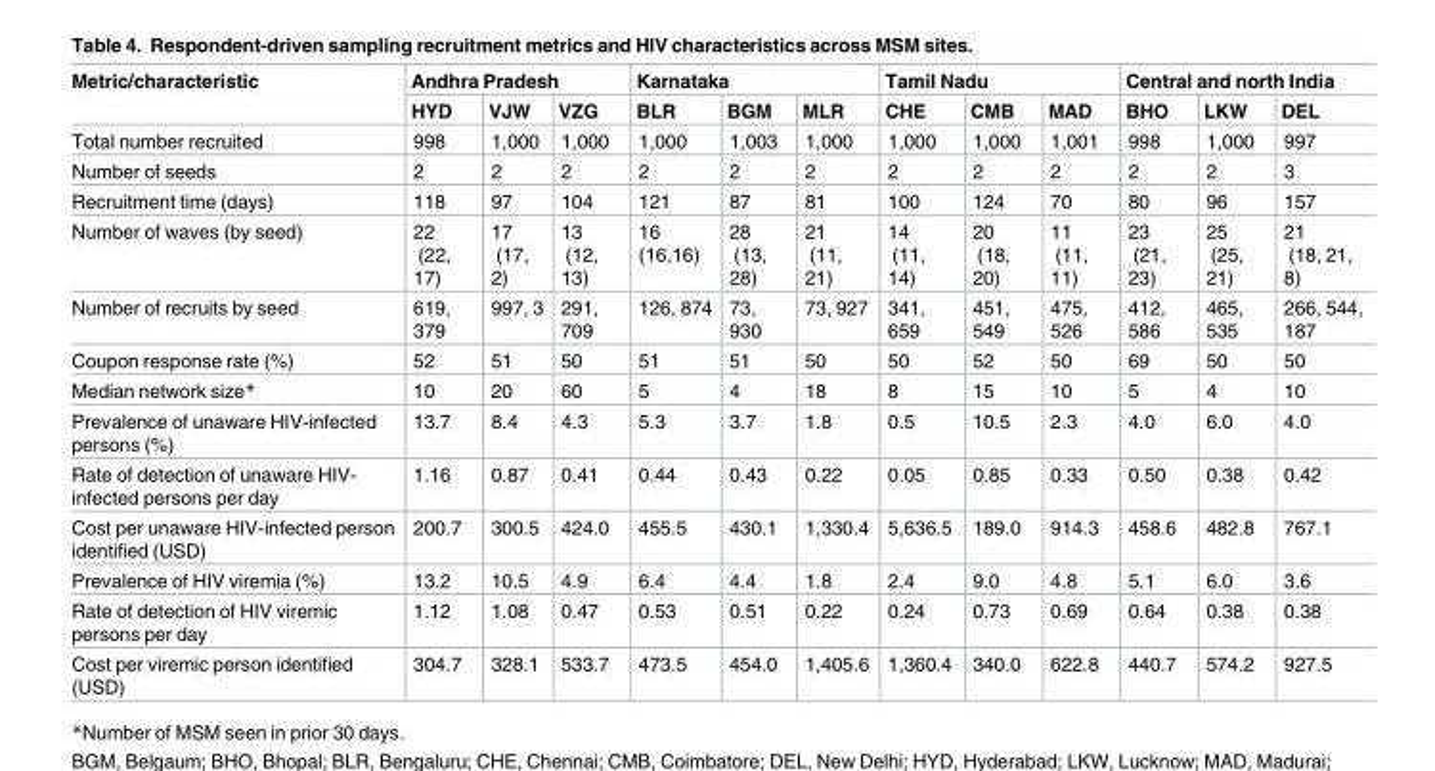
<table><thead><tr><td rowspan="2">Metric/characteristic</td><td colspan="3">Andhra Pradesh</td><td colspan="3">Karnataka</td><td colspan="3">Tamil Nadu</td><td colspan="3">Central and north India</td></tr><tr><td>HYD</td><td>VJW</td><td>VZG</td><td>BLR</td><td>BGM</td><td>MLR</td><td>CHE</td><td>CMB</td><td>MAD</td><td>BHO</td><td>LKW</td><td>DEL</td></tr></thead><tbody><tr><td>Total number recruited</td><td>998</td><td>1,000</td><td>1,000</td><td>1,000</td><td>1,003</td><td>1,000</td><td>1,000</td><td>1,000</td><td>1,001</td><td>998</td><td>1,000</td><td>997</td></tr><tr><td>Number of seeds</td><td>2</td><td>2</td><td>2</td><td>2</td><td>2</td><td>2</td><td>2</td><td>2</td><td>2</td><td>2</td><td>2</td><td>3</td></tr><tr><td>Recruitment time (days)</td><td>118</td><td>97</td><td>104</td><td>121</td><td>87</td><td>81</td><td>100</td><td>124</td><td>70</td><td>80</td><td>96</td><td>157</td></tr><tr><td>Number of waves (by seed)</td><td>22 (22, 17)</td><td>17 (17, 2)</td><td>13 (12, 13)</td><td>16 (16,16)</td><td>28 (13, 28)</td><td>21 (11, 21)</td><td>14 (11, 14)</td><td>20 (18, 20)</td><td>11 (11, 11)</td><td>23 (21, 23)</td><td>25 (25, 21)</td><td>21 (18, 21, 8)</td></tr><tr><td>Number of recruits by seed</td><td>619, 379</td><td>997, 3</td><td>291, 709</td><td>126, 874</td><td>73, 930</td><td>73, 927</td><td>341, 659</td><td>451, 549</td><td>475, 526</td><td>412, 586</td><td>465, 535</td><td>266, 544, 187</td></tr><tr><td>Coupon response rate (%)</td><td>52</td><td>51</td><td>50</td><td>51</td><td>51</td><td>50</td><td>50</td><td>52</td><td>50</td><td>69</td><td>50</td><td>50</td></tr><tr><td>Median network size*</td><td>10</td><td>20</td><td>60</td><td>5</td><td>4</td><td>18</td><td>8</td><td>15</td><td>10</td><td>5</td><td>4</td><td>10</td></tr><tr><td>Prevalence of unaware HIV-infected persons (%)</td><td>13.7</td><td>8.4</td><td>4.3</td><td>5.3</td><td>3.7</td><td>1.8</td><td>0.5</td><td>10.5</td><td>2.3</td><td>4.0</td><td>6.0</td><td>4.0</td></tr><tr><td>Rate of detection of unaware HIV- infected persons per day</td><td>1.16</td><td>0.87</td><td>0.41</td><td>0.44</td><td>0.43</td><td>0.22</td><td>0.05</td><td>0.85</td><td>0.33</td><td>0.50</td><td>0.38</td><td>0.42</td></tr><tr><td>Cost per unaware HIV-infected person identified (USD)</td><td>200.7</td><td>300.5</td><td>424.0</td><td>455.5</td><td>430.1</td><td>1,330.4</td><td>5,636.5</td><td>189.0</td><td>914.3</td><td>458.6</td><td>482.8</td><td>767.1</td></tr><tr><td>Prevalence of HIV viremia (%)</td><td>13.2</td><td>10.5</td><td>4.9</td><td>6.4</td><td>4.4</td><td>1.8</td><td>2.4</td><td>9.0</td><td>4.8</td><td>5.1</td><td>6.0</td><td>3.6</td></tr><tr><td>Rate of detection of HIV viremic persons per day</td><td>1.12</td><td>1.08</td><td>0.47</td><td>0.53</td><td>0.51</td><td>0.22</td><td>0.24</td><td>0.73</td><td>0.69</td><td>0.64</td><td>0.38</td><td>0.38</td></tr><tr><td>Cost per viremic person identified (USD)</td><td>304.7</td><td>328.1</td><td>533.7</td><td>473.5</td><td>454.0</td><td>1,405.6</td><td>1,360.4</td><td>340.0</td><td>622.8</td><td>440.7</td><td>574.2</td><td>927.5</td></tr></tbody></table>